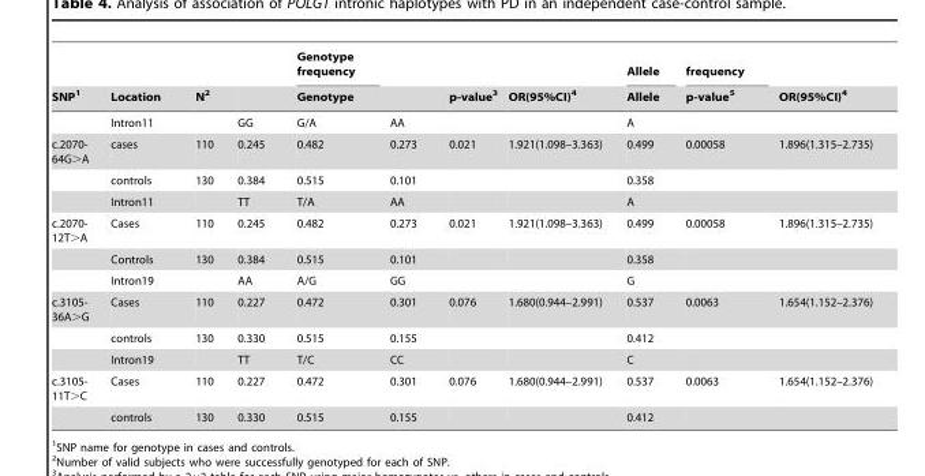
<table><thead><tr><td rowspan="2">SNP<sup>1</sup></td><td rowspan="2">Location</td><td rowspan="2">N<sup>2</sup></td><td rowspan="2"></td><td rowspan="2">Genotype frequency Genotype</td><td rowspan="2"></td><td rowspan="2">p-value<sup>3</sup></td><td rowspan="2">OR(95%CI)<sup>4</sup></td><td rowspan="2">Allele Allele</td><td rowspan="2">frequency p-value<sup>5</sup></td><td rowspan="2">OR(95%CI)<sup>4</sup></td></tr><tr></tr></thead><tbody><tr><td></td><td>Intron11</td><td></td><td>GG</td><td>G/A</td><td>AA</td><td></td><td></td><td>A</td><td></td><td></td></tr><tr><td rowspan="3">c.2070- 64G&gt;A</td><td>cases</td><td>110</td><td>0.245</td><td>0.482</td><td>0.273</td><td>0.021</td><td>1.921(1.098–3.363)</td><td>0.499</td><td>0.00058</td><td>1.896(1.315–2.735)</td></tr><tr><td>controls</td><td>130</td><td>0.384</td><td>0.515</td><td>0.101</td><td></td><td></td><td>0.358</td><td></td><td></td></tr><tr><td>Intron11</td><td></td><td>TT</td><td>T/A</td><td>AA</td><td></td><td></td><td>A</td><td></td><td></td></tr><tr><td rowspan="3">c.2070- 12T&gt;A</td><td>Cases</td><td>110</td><td>0.245</td><td>0.482</td><td>0.273</td><td>0.021</td><td>1.921(1.098–3.363)</td><td>0.499</td><td>0.00058</td><td>1.896(1.315–2.735)</td></tr><tr><td>Controls</td><td>130</td><td>0.384</td><td>0.515</td><td>0.101</td><td></td><td></td><td>0.358</td><td></td><td></td></tr><tr><td>Intron19</td><td></td><td>AA</td><td>A/G</td><td>GG</td><td></td><td></td><td>G</td><td></td><td></td></tr><tr><td rowspan="3">c.3105- 36A&gt;G</td><td>Cases</td><td>110</td><td>0.227</td><td>0.472</td><td>0.301</td><td>0.076</td><td>1.680(0.944–2.991)</td><td>0.537</td><td>0.0063</td><td>1.654(1.152–2.376)</td></tr><tr><td>controls</td><td>130</td><td>0.330</td><td>0.515</td><td>0.155</td><td></td><td></td><td>0.412</td><td></td><td></td></tr><tr><td>Intron19</td><td></td><td>TT</td><td>T/C</td><td>CC</td><td></td><td></td><td>C</td><td></td><td></td></tr><tr><td rowspan="2">c.3105- 11T&gt;C</td><td>Cases</td><td>110</td><td>0.227</td><td>0.472</td><td>0.301</td><td>0.076</td><td>1.680(0.944–2.991)</td><td>0.537</td><td>0.0063</td><td>1.654(1.152–2.376)</td></tr><tr><td>controls</td><td>130</td><td>0.330</td><td>0.515</td><td>0.155</td><td></td><td></td><td>0.412</td><td></td><td></td></tr></tbody></table>